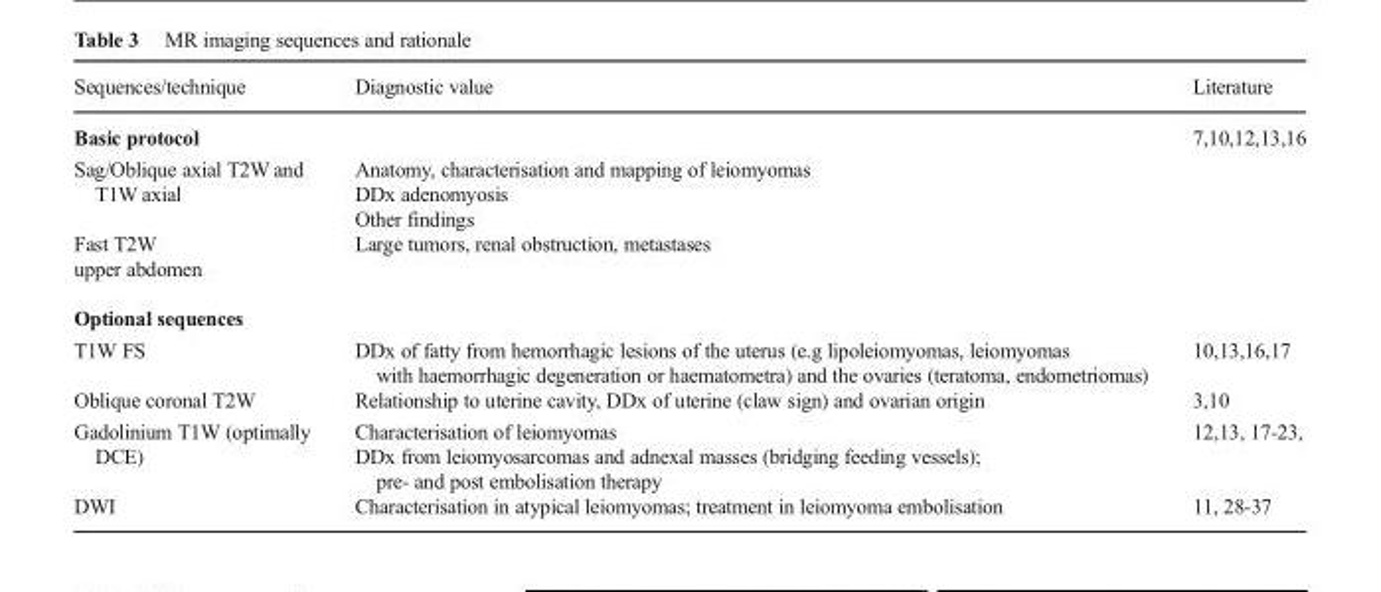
<table><thead><tr><td>Sequences/technique</td><td>Diagnostic value</td><td>Literature</td></tr></thead><tbody><tr><td>Basic protocol</td><td></td><td>7,10,12,13,16</td></tr><tr><td>Sag/Oblique axial T2W and T1W axial</td><td>Anatomy, characterisation and mapping of leiomyomas DDx adenomyosis Other findings</td><td></td></tr><tr><td>Fast T2W upper abdomen</td><td>Large tumors, renal obstruction, metastases</td><td></td></tr><tr><td colspan="3">Optional sequences</td></tr><tr><td>T1W FS</td><td>DDx of fatty from hemorrhagic lesions of the uterus (e.g lipoleiomyomas, leiomyomas with haemorrhagic degeneration or haematometra) and the ovaries (teratoma, endometriomas)</td><td>10,13,16,17</td></tr><tr><td>Oblique coronal T2W</td><td>Relationship to uterine cavity, DDx of uterine (claw sign) and ovarian origin</td><td>3,10</td></tr><tr><td>Gadolinium T1W (optimally DCE)</td><td>Characterisation of leiomyomas DDx from leiomyosarcomas and adnexal masses (bridging feeding vessels); pre- and post embolisation therapy</td><td>12,13, 17-23,</td></tr><tr><td>DWI</td><td>Characterisation in atypical leiomyomas; treatment in leiomyoma embolisation</td><td>11, 28-37</td></tr></tbody></table>